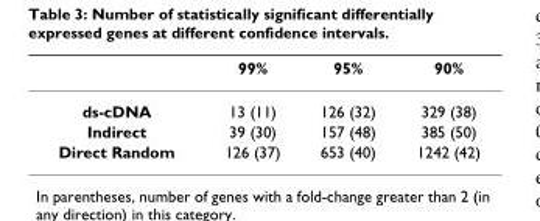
<table><thead><tr><td></td><td>99%</td><td>95%</td><td>90%</td></tr></thead><tbody><tr><td>ds-cDNA</td><td>13 (11)</td><td>126 (32)</td><td>329 (38)</td></tr><tr><td>Indirect</td><td>39 (30)</td><td>157 (48)</td><td>385 (50)</td></tr><tr><td>Direct Random</td><td>126 (37)</td><td>653 (40)</td><td>1242 (42)</td></tr></tbody></table>